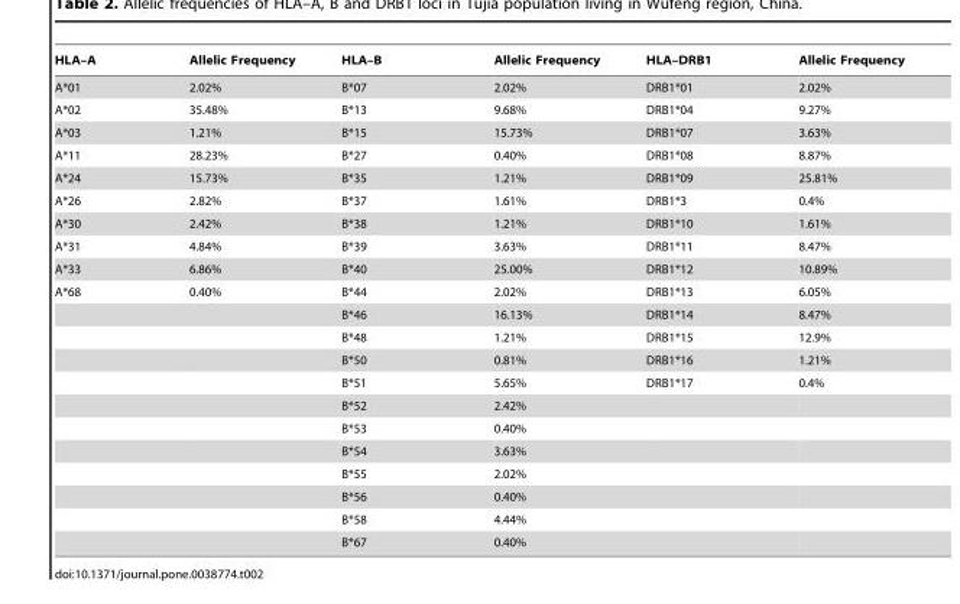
<table><thead><tr><td>HLA–A</td><td>Allelic Frequency</td><td>HLA–B</td><td>Allelic Frequency</td><td>HLA–DRB1</td><td>Allelic Frequency</td></tr></thead><tbody><tr><td>A*01</td><td>2.02%</td><td>B*07</td><td>2.02%</td><td>DRB1*01</td><td>2.02%</td></tr><tr><td>A*02</td><td>35.48%</td><td>B*13</td><td>9.68%</td><td>DRB1*04</td><td>9.27%</td></tr><tr><td>A*03</td><td>1.21%</td><td>B*15</td><td>15.73%</td><td>DRB1*07</td><td>3.63%</td></tr><tr><td>A*11</td><td>28.23%</td><td>B*27</td><td>0.40%</td><td>DRB1*08</td><td>8.87%</td></tr><tr><td>A*24</td><td>15.73%</td><td>B*35</td><td>1.21%</td><td>DRB1*09</td><td>25.81%</td></tr><tr><td>A*26</td><td>2.82%</td><td>B*37</td><td>1.61%</td><td>DRB1*3</td><td>0.4%</td></tr><tr><td>A*30</td><td>2.42%</td><td>B*38</td><td>1.21%</td><td>DRB1*10</td><td>1.61%</td></tr><tr><td>A*31</td><td>4.84%</td><td>B*39</td><td>3.63%</td><td>DRB1*11</td><td>8.47%</td></tr><tr><td>A*33</td><td>6.86%</td><td>B*40</td><td>25.00%</td><td>DRB1*12</td><td>10.89%</td></tr><tr><td rowspan="12">A*68</td><td>0.40%</td><td>B*44</td><td>2.02%</td><td>DRB1*13</td><td>6.05%</td></tr><tr><td></td><td>B*46</td><td>16.13%</td><td>DRB1*14</td><td>8.47%</td></tr><tr><td></td><td>B*48</td><td>1.21%</td><td>DRB1*15</td><td>12.9%</td></tr><tr><td></td><td>B*50</td><td>0.81%</td><td>DRB1*16</td><td>1.21%</td></tr><tr><td></td><td>B*51</td><td>5.65%</td><td>DRB1*17</td><td>0.4%</td></tr><tr><td></td><td>B*52</td><td>2.42%</td><td></td><td></td></tr><tr><td></td><td>B*53</td><td>0.40%</td><td></td><td></td></tr><tr><td></td><td>B*54</td><td>3.63%</td><td></td><td></td></tr><tr><td></td><td>B*55</td><td>2.02%</td><td></td><td></td></tr><tr><td></td><td>B*56</td><td>0.40%</td><td></td><td></td></tr><tr><td></td><td>B*58</td><td>4.44%</td><td></td><td></td></tr><tr><td></td><td>B*67</td><td>0.40%</td><td></td><td></td></tr></tbody></table>